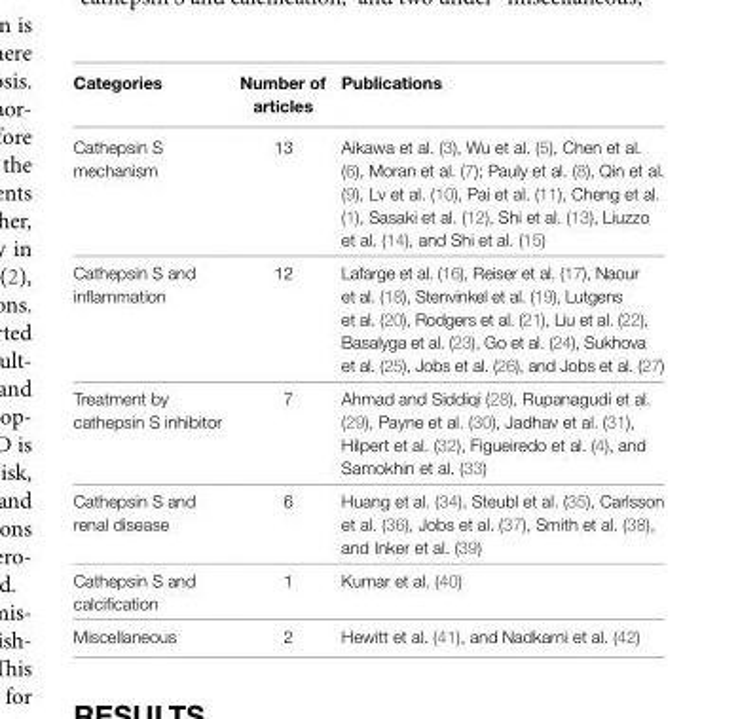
<table><thead><tr><td>Categories</td><td>Number of articles</td><td>Publications</td></tr></thead><tbody><tr><td>Cathepsin S mechanism</td><td>13</td><td>Aikawa et al. (3), Wu et al. (5), Chen et al. (6), Moran et al. (7); Pauly et al. (8), Qin et al. (9), Lv et al. (10), Pai et al. (11), Cheng et al. (1), Sasaki et al. (12), Shi et al. (13), Liuzzo et al. (14), and Shi et al. (15)</td></tr><tr><td>Cathepsin S and inflammation</td><td>12</td><td>Lafarge et al. (16), Reiser et al. (17), Naour et al. (18), Stenvinkel et al. (19), Lutgens et al. (20), Rodgers et al. (21), Liu et al. (22), Basalyga et al. (23), Go et al. (24), Sukhova et al. (25), Jobs et al. (26), and Jobs et al. (27)</td></tr><tr><td>Treatment by cathepsin S inhibitor</td><td>7</td><td>Ahmad and Siddiqi (28), Rupanagudi et al. (29), Payne et al. (30), Jadhav et al. (31), Hilpert et al. (32), Figueiredo et al. (4), and Samokhin et al. (33)</td></tr><tr><td>Cathepsin S and renal disease</td><td>6</td><td>Huang et al. (34), Steubl et al. (35), Carlsson et al. (36), Jobs et al. (37), Smith et al. (38), and Inker et al. (39)</td></tr><tr><td>Cathepsin S and calcification</td><td>1</td><td>Kumar et al. (40)</td></tr><tr><td>Miscellaneous</td><td>2</td><td>Hewitt et al. (41), and Nadkarni et al. (42)</td></tr></tbody></table>